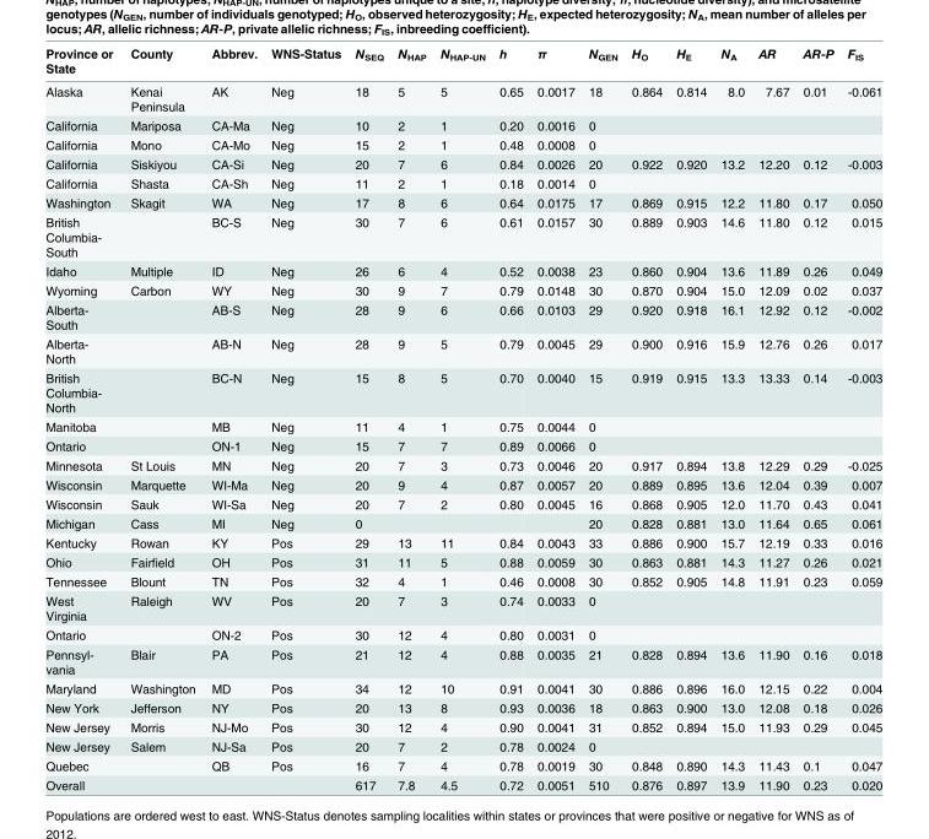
<table><thead><tr><td>Province or State</td><td>County</td><td>Abbrev.</td><td>WNS-Status</td><td>N<sub>SEQ</sub></td><td>N<sub>HAP</sub></td><td>N<sub>HAP-UN</sub></td><td>h</td><td>π</td><td>N<sub>GEN</sub></td><td>H<sub>O</sub></td><td>H<sub>E</sub></td><td>N<sub>A</sub></td><td>AR</td><td>AR-P</td><td>F<sub>IS</sub></td></tr></thead><tbody><tr><td>Alaska</td><td>Kenai Peninsula</td><td>AK</td><td>Neg</td><td>18</td><td>5</td><td>5</td><td>0.65</td><td>0.0017</td><td>18</td><td>0.864</td><td>0.814</td><td>8.0</td><td>7.67</td><td>0.01</td><td>-0.061</td></tr><tr><td>California</td><td>Mariposa</td><td>CA-Ma</td><td>Neg</td><td>10</td><td>2</td><td>1</td><td>0.20</td><td>0.0016</td><td>0</td><td></td><td></td><td></td><td></td><td></td><td></td></tr><tr><td>California</td><td>Mono</td><td>CA-Mo</td><td>Neg</td><td>15</td><td>2</td><td>1</td><td>0.48</td><td>0.0008</td><td>0</td><td></td><td></td><td></td><td></td><td></td><td></td></tr><tr><td>California</td><td>Siskiyou</td><td>CA-Si</td><td>Neg</td><td>20</td><td>7</td><td>6</td><td>0.84</td><td>0.0026</td><td>20</td><td>0.922</td><td>0.920</td><td>13.2</td><td>12.20</td><td>0.12</td><td>-0.003</td></tr><tr><td>California</td><td>Shasta</td><td>CA-Sh</td><td>Neg</td><td>11</td><td>2</td><td>1</td><td>0.18</td><td>0.0014</td><td>0</td><td></td><td></td><td></td><td></td><td></td><td></td></tr><tr><td>Washington</td><td>Skagit</td><td>WA</td><td>Neg</td><td>17</td><td>8</td><td>6</td><td>0.64</td><td>0.0175</td><td>17</td><td>0.869</td><td>0.915</td><td>12.2</td><td>11.80</td><td>0.17</td><td>0.050</td></tr><tr><td>British Columbia- South</td><td></td><td>BC-S</td><td>Neg</td><td>30</td><td>7</td><td>6</td><td>0.61</td><td>0.0157</td><td>30</td><td>0.889</td><td>0.903</td><td>14.6</td><td>11.80</td><td>0.12</td><td>0.015</td></tr><tr><td>Idaho</td><td>Multiple</td><td>ID</td><td>Neg</td><td>26</td><td>6</td><td>4</td><td>0.52</td><td>0.0038</td><td>23</td><td>0.860</td><td>0.904</td><td>13.6</td><td>11.89</td><td>0.26</td><td>0.049</td></tr><tr><td>Wyoming</td><td>Carbon</td><td>WY</td><td>Neg</td><td>30</td><td>9</td><td>7</td><td>0.79</td><td>0.0148</td><td>30</td><td>0.870</td><td>0.904</td><td>15.0</td><td>12.09</td><td>0.02</td><td>0.037</td></tr><tr><td>Alberta- South</td><td></td><td>AB-S</td><td>Neg</td><td>28</td><td>9</td><td>6</td><td>0.66</td><td>0.0103</td><td>29</td><td>0.920</td><td>0.918</td><td>16.1</td><td>12.92</td><td>0.12</td><td>-0.002</td></tr><tr><td>Alberta- North</td><td></td><td>AB-N</td><td>Neg</td><td>28</td><td>9</td><td>5</td><td>0.79</td><td>0.0045</td><td>29</td><td>0.900</td><td>0.916</td><td>15.9</td><td>12.76</td><td>0.26</td><td>0.017</td></tr><tr><td>British Columbia- North</td><td></td><td>BC-N</td><td>Neg</td><td>15</td><td>8</td><td>5</td><td>0.70</td><td>0.0040</td><td>15</td><td>0.919</td><td>0.915</td><td>13.3</td><td>13.33</td><td>0.14</td><td>-0.003</td></tr><tr><td>Manitoba</td><td></td><td>MB</td><td>Neg</td><td>11</td><td>4</td><td>1</td><td>0.75</td><td>0.0044</td><td>0</td><td></td><td></td><td></td><td></td><td></td><td></td></tr><tr><td>Ontario</td><td></td><td>ON-1</td><td>Neg</td><td>15</td><td>7</td><td>7</td><td>0.89</td><td>0.0066</td><td>0</td><td></td><td></td><td></td><td></td><td></td><td></td></tr><tr><td>Minnesota</td><td>St Louis</td><td>MN</td><td>Neg</td><td>20</td><td>7</td><td>3</td><td>0.73</td><td>0.0046</td><td>20</td><td>0.917</td><td>0.894</td><td>13.8</td><td>12.29</td><td>0.29</td><td>-0.025</td></tr><tr><td>Wisconsin</td><td>Marquette</td><td>WI-Ma</td><td>Neg</td><td>20</td><td>9</td><td>4</td><td>0.87</td><td>0.0057</td><td>20</td><td>0.889</td><td>0.895</td><td>13.6</td><td>12.04</td><td>0.39</td><td>0.007</td></tr><tr><td>Wisconsin</td><td>Sauk</td><td>WI-Sa</td><td>Neg</td><td>20</td><td>7</td><td>2</td><td>0.80</td><td>0.0045</td><td>16</td><td>0.868</td><td>0.905</td><td>12.0</td><td>11.70</td><td>0.43</td><td>0.041</td></tr><tr><td>Michigan</td><td>Cass</td><td>MI</td><td>Neg</td><td>0</td><td></td><td></td><td></td><td></td><td>20</td><td>0.828</td><td>0.881</td><td>13.0</td><td>11.64</td><td>0.65</td><td>0.061</td></tr><tr><td>Kentucky</td><td>Rowan</td><td>KY</td><td>Pos</td><td>29</td><td>13</td><td>11</td><td>0.84</td><td>0.0043</td><td>33</td><td>0.886</td><td>0.900</td><td>15.7</td><td>12.19</td><td>0.33</td><td>0.016</td></tr><tr><td>Ohio</td><td>Fairfield</td><td>OH</td><td>Pos</td><td>31</td><td>11</td><td>5</td><td>0.88</td><td>0.0059</td><td>30</td><td>0.863</td><td>0.881</td><td>14.3</td><td>11.27</td><td>0.26</td><td>0.021</td></tr><tr><td>Tennessee</td><td>Blount</td><td>TN</td><td>Pos</td><td>32</td><td>4</td><td>1</td><td>0.46</td><td>0.0008</td><td>30</td><td>0.852</td><td>0.905</td><td>14.8</td><td>11.91</td><td>0.23</td><td>0.059</td></tr><tr><td>West Virginia</td><td>Raleigh</td><td>WV</td><td>Pos</td><td>20</td><td>7</td><td>3</td><td>0.74</td><td>0.0033</td><td>0</td><td></td><td></td><td></td><td></td><td></td><td></td></tr><tr><td>Ontario</td><td></td><td>ON-2</td><td>Pos</td><td>30</td><td>12</td><td>4</td><td>0.80</td><td>0.0031</td><td>0</td><td></td><td></td><td></td><td></td><td></td><td></td></tr><tr><td>Pennsyl- vania</td><td>Blair</td><td>PA</td><td>Pos</td><td>21</td><td>12</td><td>4</td><td>0.88</td><td>0.0035</td><td>21</td><td>0.828</td><td>0.894</td><td>13.6</td><td>11.90</td><td>0.16</td><td>0.018</td></tr><tr><td>Maryland</td><td>Washington</td><td>MD</td><td>Pos</td><td>34</td><td>12</td><td>10</td><td>0.91</td><td>0.0041</td><td>30</td><td>0.886</td><td>0.896</td><td>16.0</td><td>12.15</td><td>0.22</td><td>0.004</td></tr><tr><td>New York</td><td>Jefferson</td><td>NY</td><td>Pos</td><td>20</td><td>13</td><td>8</td><td>0.93</td><td>0.0036</td><td>18</td><td>0.863</td><td>0.900</td><td>13.0</td><td>12.08</td><td>0.18</td><td>0.026</td></tr><tr><td>New Jersey</td><td>Morris</td><td>NJ-Mo</td><td>Pos</td><td>30</td><td>12</td><td>4</td><td>0.90</td><td>0.0041</td><td>31</td><td>0.852</td><td>0.894</td><td>15.0</td><td>11.93</td><td>0.29</td><td>0.045</td></tr><tr><td>New Jersey</td><td>Salem</td><td>NJ-Sa</td><td>Pos</td><td>20</td><td>7</td><td>2</td><td>0.78</td><td>0.0024</td><td>0</td><td></td><td></td><td></td><td></td><td></td><td></td></tr><tr><td>Quebec</td><td></td><td>QB</td><td>Pos</td><td>16</td><td>7</td><td>4</td><td>0.78</td><td>0.0019</td><td>30</td><td>0.848</td><td>0.890</td><td>14.3</td><td>11.43</td><td>0.1</td><td>0.047</td></tr><tr><td>Overall</td><td></td><td></td><td></td><td>617</td><td>7.8</td><td>4.5</td><td>0.72</td><td>0.0051</td><td>510</td><td>0.876</td><td>0.897</td><td>13.9</td><td>11.90</td><td>0.23</td><td>0.020</td></tr></tbody></table>